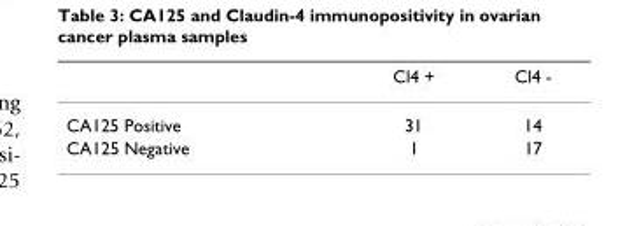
<table><thead><tr><td></td><td>Cl4 +</td><td>Cl4 -</td></tr></thead><tbody><tr><td>CA125 Positive</td><td>31</td><td>14</td></tr><tr><td>CA125 Negative</td><td>1</td><td>17</td></tr></tbody></table>